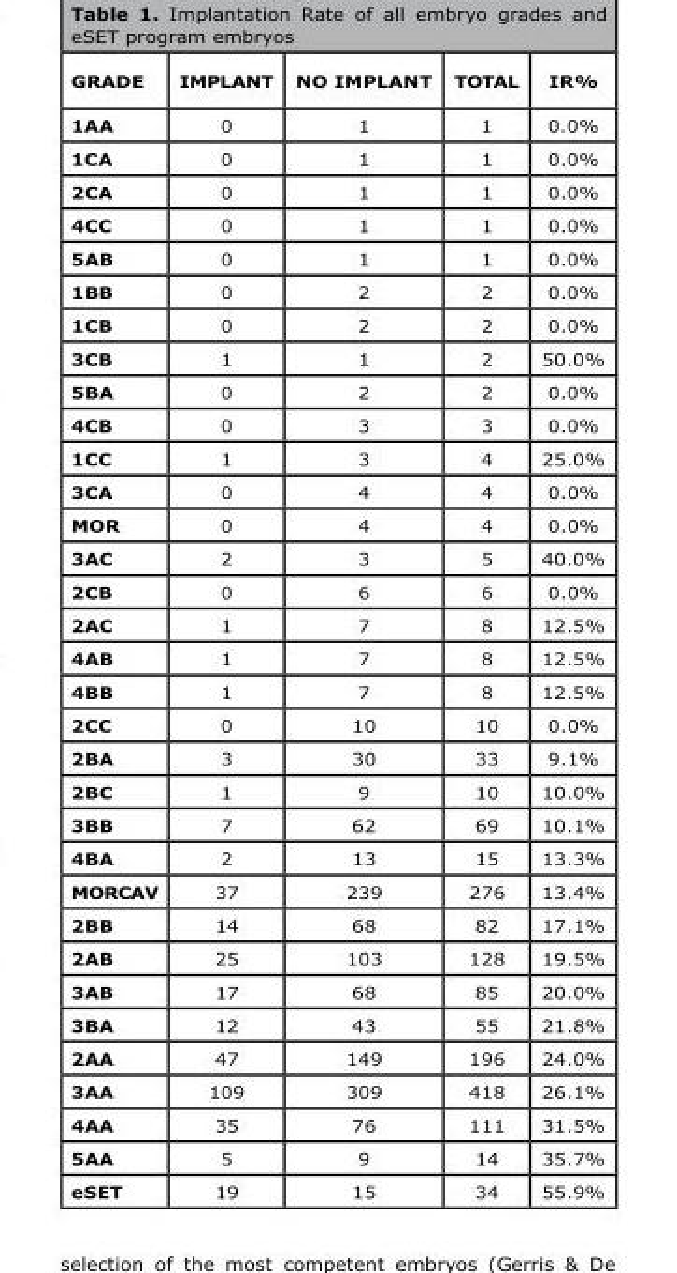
<table><thead><tr><td>GRADE</td><td>IMPLANT</td><td>NO IMPLANT</td><td>TOTAL</td><td>IR%</td></tr></thead><tbody><tr><td>1AA</td><td>0</td><td>1</td><td>1</td><td>0.0%</td></tr><tr><td>1CA</td><td>0</td><td>1</td><td>1</td><td>0.0%</td></tr><tr><td>2CA</td><td>0</td><td>1</td><td>1</td><td>0.0%</td></tr><tr><td>4CC</td><td>0</td><td>1</td><td>1</td><td>0.0%</td></tr><tr><td>5AB</td><td>0</td><td>1</td><td>1</td><td>0.0%</td></tr><tr><td>1BB</td><td>0</td><td>2</td><td>2</td><td>0.0%</td></tr><tr><td>1CB</td><td>0</td><td>2</td><td>2</td><td>0.0%</td></tr><tr><td>3CB</td><td>1</td><td>1</td><td>2</td><td>50.0%</td></tr><tr><td>5BA</td><td>0</td><td>2</td><td>2</td><td>0.0%</td></tr><tr><td>4CB</td><td>0</td><td>3</td><td>3</td><td>0.0%</td></tr><tr><td>1CC</td><td>1</td><td>3</td><td>4</td><td>25.0%</td></tr><tr><td>3CA</td><td>0</td><td>4</td><td>4</td><td>0.0%</td></tr><tr><td>MOR</td><td>0</td><td>4</td><td>4</td><td>0.0%</td></tr><tr><td>3AC</td><td>2</td><td>3</td><td>5</td><td>40.0%</td></tr><tr><td>2CB</td><td>0</td><td>6</td><td>6</td><td>0.0%</td></tr><tr><td>2AC</td><td>1</td><td>7</td><td>8</td><td>12.5%</td></tr><tr><td>4AB</td><td>1</td><td>7</td><td>8</td><td>12.5%</td></tr><tr><td>4BB</td><td>1</td><td>7</td><td>8</td><td>12.5%</td></tr><tr><td>2CC</td><td>0</td><td>10</td><td>10</td><td>0.0%</td></tr><tr><td>2BA</td><td>3</td><td>30</td><td>33</td><td>9.1%</td></tr><tr><td>2BC</td><td>1</td><td>9</td><td>10</td><td>10.0%</td></tr><tr><td>3BB</td><td>7</td><td>62</td><td>69</td><td>10.1%</td></tr><tr><td>4BA</td><td>2</td><td>13</td><td>15</td><td>13.3%</td></tr><tr><td>MORCAV</td><td>37</td><td>239</td><td>276</td><td>13.4%</td></tr><tr><td>2BB</td><td>14</td><td>68</td><td>82</td><td>17.1%</td></tr><tr><td>2AB</td><td>25</td><td>103</td><td>128</td><td>19.5%</td></tr><tr><td>3AB</td><td>17</td><td>68</td><td>85</td><td>20.0%</td></tr><tr><td>3BA</td><td>12</td><td>43</td><td>55</td><td>21.8%</td></tr><tr><td>2AA</td><td>47</td><td>149</td><td>196</td><td>24.0%</td></tr><tr><td>3AA</td><td>109</td><td>309</td><td>418</td><td>26.1%</td></tr><tr><td>4AA</td><td>35</td><td>76</td><td>111</td><td>31.5%</td></tr><tr><td>5AA</td><td>5</td><td>9</td><td>14</td><td>35.7%</td></tr><tr><td>eSET</td><td>19</td><td>15</td><td>34</td><td>55.9%</td></tr></tbody></table>